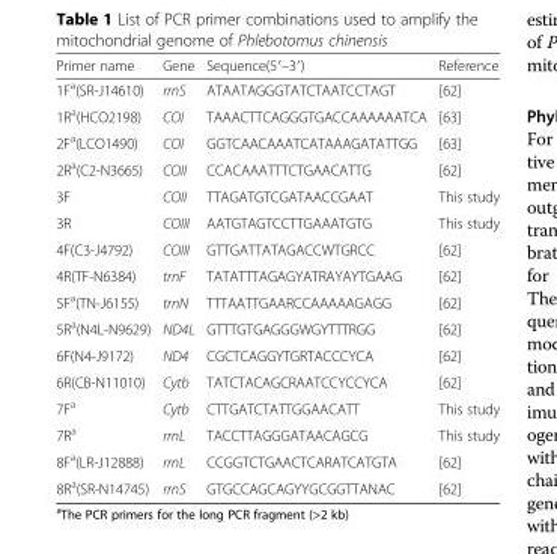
<table><thead><tr><td>Primer name</td><td>Gene</td><td>Sequence(5′–3′)</td><td>Reference</td></tr></thead><tbody><tr><td>1F<sup>a</sup>(SR-J14610)</td><td>rrnS</td><td>ATAATAGGGTATCTAATCCTAGT</td><td>[62]</td></tr><tr><td>1R<sup>a</sup>(HCO2198)</td><td>COI</td><td>TAAACTTCAGGGTGACCAAAAAATCA</td><td>[63]</td></tr><tr><td>2F<sup>a</sup>(LCO1490)</td><td>COI</td><td>GGTCAACAAATCATAAAGATATTGG</td><td>[63]</td></tr><tr><td>2R<sup>a</sup>(C2-N3665)</td><td>COII</td><td>CCACAAATTTCTGAACATTG</td><td>[62]</td></tr><tr><td>3F</td><td>COII</td><td>TTAGATGTCGATAACCGAAT</td><td>This study</td></tr><tr><td>3R</td><td>COIII</td><td>AATGTAGTCCTTGAAATGTG</td><td>This study</td></tr><tr><td>4F(C3-J4792)</td><td>COIII</td><td>GTTGATTATAGACCWTGRCC</td><td>[62]</td></tr><tr><td>4R(TF-N6384)</td><td>trnF</td><td>TATATTTAGAGYATRAYAYTGAAG</td><td>[62]</td></tr><tr><td>5F<sup>a</sup>(TN-J6155)</td><td>trnN</td><td>TTTAATTGAARCCAAAAAGAGG</td><td>[62]</td></tr><tr><td>5R<sup>a</sup>(N4L-N9629)</td><td>ND4L</td><td>GTTTGTGAGGGWGYTTTRGG</td><td>[62]</td></tr><tr><td>6F(N4-J9172)</td><td>ND4</td><td>CGCTCAGGYTGRTACCCYCA</td><td>[62]</td></tr><tr><td>6R(CB-N11010)</td><td>Cytb</td><td>TATCTACAGCRAATCCYCCYCA</td><td>[62]</td></tr><tr><td>7F<sup>a</sup></td><td>Cytb</td><td>CTTGATCTATTGGAACATT</td><td>This study</td></tr><tr><td>7R<sup>a</sup></td><td>rrnL</td><td>TACCTTAGGGATAACAGCG</td><td>This study</td></tr><tr><td>8F<sup>a</sup>(LR-J12888)</td><td>rrnL</td><td>CCGGTCTGAACTCARATCATGTA</td><td>[62]</td></tr><tr><td>8R<sup>a</sup>(SR-N14745)</td><td>rrnS</td><td>GTGCCAGCAGYYGCGGTTANAC</td><td>[62]</td></tr></tbody></table>